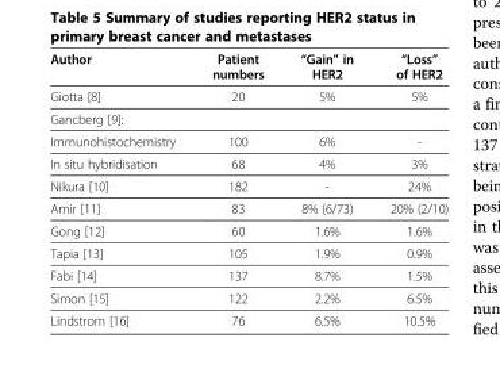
<table><thead><tr><td>Author</td><td>Patient numbers</td><td>“Gain” in HER2</td><td>“Loss” of HER2</td></tr></thead><tbody><tr><td>Giotta [8]</td><td>20</td><td>5%</td><td>5%</td></tr><tr><td colspan="4">Gancberg [9]:</td></tr><tr><td>Immunohistochemistry</td><td>100</td><td>6%</td><td>-</td></tr><tr><td>In situ hybridisation</td><td>68</td><td>4%</td><td>3%</td></tr><tr><td>Nikura [10]</td><td>182</td><td>-</td><td>24%</td></tr><tr><td>Amir [11]</td><td>83</td><td>8% (6/73)</td><td>20% (2/10)</td></tr><tr><td>Gong [12]</td><td>60</td><td>1.6%</td><td>1.6%</td></tr><tr><td>Tapia [13]</td><td>105</td><td>1.9%</td><td>0.9%</td></tr><tr><td>Fabi [14]</td><td>137</td><td>8.7%</td><td>1.5%</td></tr><tr><td>Simon [15]</td><td>122</td><td>2.2%</td><td>6.5%</td></tr><tr><td>Lindstrom [16]</td><td>76</td><td>6.5%</td><td>10.5%</td></tr></tbody></table>